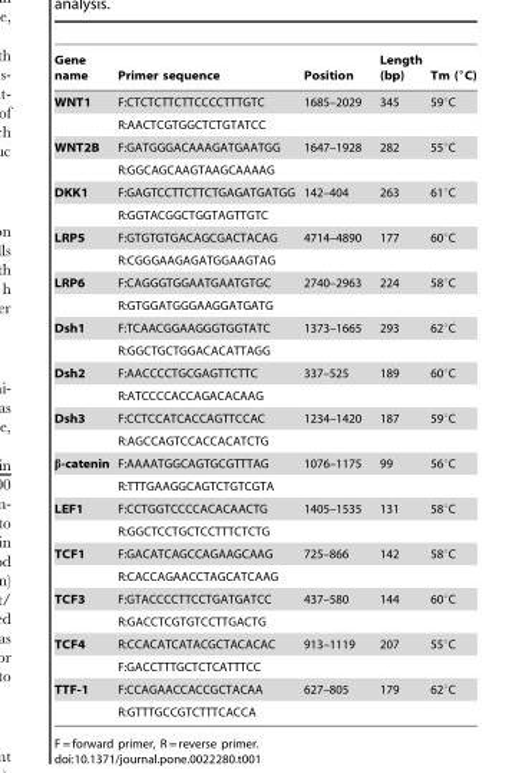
<table><thead><tr><td>Gene name</td><td>Primer sequence</td><td>Position</td><td>Length (bp)</td><td>Tm (°C)</td></tr></thead><tbody><tr><td rowspan="2">WNT1</td><td>F:CTCTCTTCTTCCCCTTTGTC</td><td>1685–2029</td><td>345</td><td>59°C</td></tr><tr><td>R:AACTCGTGGCTCTGTATCC</td><td></td><td></td><td></td></tr><tr><td rowspan="2">WNT2B</td><td>F:GATGGGACAAAGATGAATGG</td><td>1647–1928</td><td>282</td><td>55°C</td></tr><tr><td>R:GGCAGCAAGTAAGCAAAAG</td><td></td><td></td><td></td></tr><tr><td rowspan="2">DKK1</td><td>F:GAGTCCTTCTTCTGAGATGATGG</td><td>142–404</td><td>263</td><td>61°C</td></tr><tr><td>R:GGTACGGCTGGTAGTTGTC</td><td></td><td></td><td></td></tr><tr><td rowspan="2">LRP5</td><td>F:GTGTGTGACAGCGACTACAG</td><td>4714–4890</td><td>177</td><td>60°C</td></tr><tr><td>R:CGGGAAGAGATGGAAGTAG</td><td></td><td></td><td></td></tr><tr><td rowspan="2">LRP6</td><td>F:CAGGGTGGAATGAATGTGC</td><td>2740–2963</td><td>224</td><td>58°C</td></tr><tr><td>R:GTGGATGGGAAGGATGATG</td><td></td><td></td><td></td></tr><tr><td rowspan="2">Dsh1</td><td>F:TCAACGGAAGGGTGGTATC</td><td>1373–1665</td><td>293</td><td>62°C</td></tr><tr><td>R:GGCTGCTGGACACATTAGG</td><td></td><td></td><td></td></tr><tr><td rowspan="2">Dsh2</td><td>F:AACCCCTGCGAGTTCTTC</td><td>337–525</td><td>189</td><td>60°C</td></tr><tr><td>R:ATCCCCACCAGACACAAG</td><td></td><td></td><td></td></tr><tr><td rowspan="2">Dsh3</td><td>F:CCTCCATCACCAGTTCCAC</td><td>1234–1420</td><td>187</td><td>59°C</td></tr><tr><td>R:AGCCAGTCCACCACATCTG</td><td></td><td></td><td></td></tr><tr><td rowspan="2">β-catenin</td><td>F:AAAATGGCAGTGCGTTTAG</td><td>1076–1175</td><td>99</td><td>56°C</td></tr><tr><td>R:TTTGAAGGCAGTCTGTCGTA</td><td></td><td></td><td></td></tr><tr><td rowspan="2">LEF1</td><td>F:CCTGGTCCCCACACAACTG</td><td>1405–1535</td><td>131</td><td>58°C</td></tr><tr><td>R:GGCTCCTGCTCCTTTCTCTG</td><td></td><td></td><td></td></tr><tr><td rowspan="2">TCF1</td><td>F:GACATCAGCCAGAAGCAAG</td><td>725–866</td><td>142</td><td>58°C</td></tr><tr><td>R:CACCAGAACCTAGCATCAAG</td><td></td><td></td><td></td></tr><tr><td rowspan="2">TCF3</td><td>F:GTACCCCTTCCTGATGATCC</td><td>437–580</td><td>144</td><td>60°C</td></tr><tr><td>R:GACCTCGTGTCCTTGACTG</td><td></td><td></td><td></td></tr><tr><td rowspan="2">TCF4</td><td>R:CCACATCATACGCTACACAC</td><td>913–1119</td><td>207</td><td>55°C</td></tr><tr><td>F:GACCTTTGCTCTCATTTCC</td><td></td><td></td><td></td></tr><tr><td rowspan="2">TTF-1</td><td>F:CCAGAACCACCGCTACAA</td><td>627–805</td><td>179</td><td>62°C</td></tr><tr><td>R:GTTTGCCGTCTTTCACCA</td><td></td><td></td><td></td></tr></tbody></table>